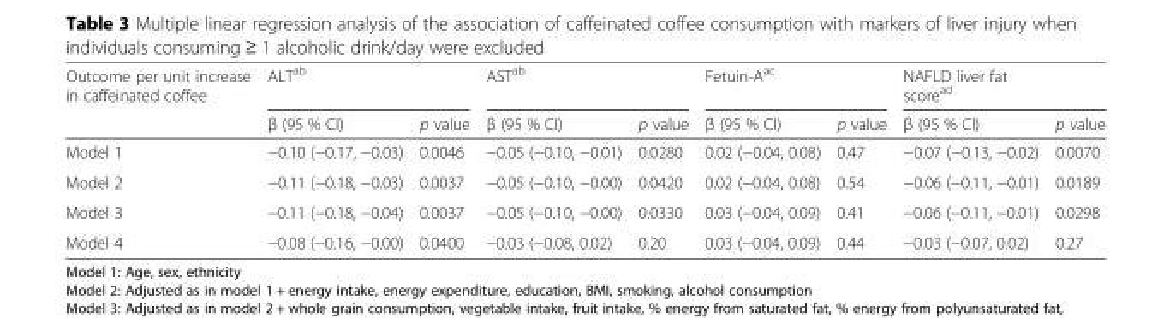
<table><thead><tr><td rowspan="2">Outcome per unit increase in caffeinated coffee</td><td colspan="2">ALT<sup>ab</sup></td><td colspan="2">AST<sup>ab</sup></td><td colspan="2">Fetuin-A<sup>ac</sup></td><td colspan="2">NAFLD liver fat score<sup>ad</sup></td></tr><tr><td>β (95 % CI)</td><td>p value</td><td>β (95 % CI)</td><td>p value</td><td>β (95 % CI)</td><td>p value</td><td>β (95 % CI)</td><td>p value</td></tr></thead><tbody><tr><td>Model 1</td><td>−0.10 (−0.17, −0.03)</td><td>0.0046</td><td>−0.05 (−0.10, −0.01)</td><td>0.0280</td><td>0.02 (−0.04, 0.08)</td><td>0.47</td><td>−0.07 (−0.13, −0.02)</td><td>0.0070</td></tr><tr><td>Model 2</td><td>−0.11 (−0.18, −0.03)</td><td>0.0037</td><td>−0.05 (−0.10, −0.00)</td><td>0.0420</td><td>0.02 (−0.04, 0.08)</td><td>0.54</td><td>−0.06 (−0.11, −0.01)</td><td>0.0189</td></tr><tr><td>Model 3</td><td>−0.11 (−0.18, −0.04)</td><td>0.0037</td><td>−0.05 (−0.10, −0.00)</td><td>0.0330</td><td>0.03 (−0.04, 0.09)</td><td>0.41</td><td>−0.06 (−0.11, −0.01)</td><td>0.0298</td></tr><tr><td>Model 4</td><td>−0.08 (−0.16, −0.00)</td><td>0.0400</td><td>−0.03 (−0.08, 0.02)</td><td>0.20</td><td>0.03 (−0.04, 0.09)</td><td>0.44</td><td>−0.03 (−0.07, 0.02)</td><td>0.27</td></tr></tbody></table>